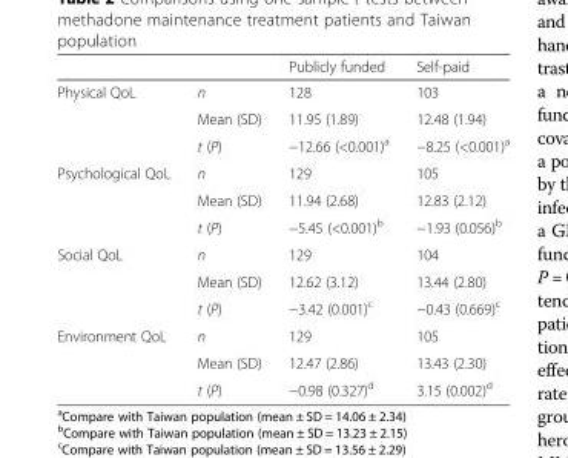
<table><thead><tr><td></td><td></td><td>Publicly funded</td><td>Self-paid</td></tr></thead><tbody><tr><td rowspan="3">Physical QoL</td><td>n</td><td>128</td><td>103</td></tr><tr><td>Mean (SD)</td><td>11.95 (1.89)</td><td>12.48 (1.94)</td></tr><tr><td>t (P)</td><td>−12.66 (&lt;0.001)<sup>a</sup></td><td>−8.25 (&lt;0.001)<sup>a</sup></td></tr><tr><td rowspan="3">Psychological QoL</td><td>n</td><td>129</td><td>105</td></tr><tr><td>Mean (SD)</td><td>11.94 (2.68)</td><td>12.83 (2.12)</td></tr><tr><td>t (P)</td><td>−5.45 (&lt;0.001)<sup>b</sup></td><td>−1.93 (0.056)<sup>b</sup></td></tr><tr><td rowspan="3">Social QoL</td><td>n</td><td>129</td><td>104</td></tr><tr><td>Mean (SD)</td><td>12.62 (3.12)</td><td>13.44 (2.80)</td></tr><tr><td>t (P)</td><td>−3.42 (0.001)<sup>c</sup></td><td>−0.43 (0.669)<sup>c</sup></td></tr><tr><td rowspan="3">Environment QoL</td><td>n</td><td>129</td><td>105</td></tr><tr><td>Mean (SD)</td><td>12.47 (2.86)</td><td>13.43 (2.30)</td></tr><tr><td>t (P)</td><td>−0.98 (0.327)<sup>d</sup></td><td>3.15 (0.002)<sup>d</sup></td></tr></tbody></table>